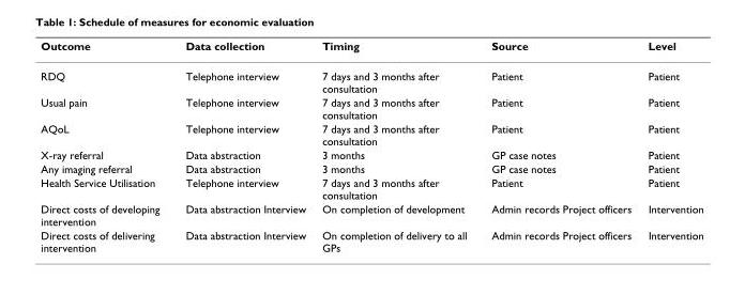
<table><thead><tr><td>Outcome</td><td>Data collection</td><td>Timing</td><td>Source</td><td>Level</td></tr></thead><tbody><tr><td>RDQ</td><td>Telephone interview</td><td>7 days and 3 months after consultation</td><td>Patient</td><td>Patient</td></tr><tr><td>Usual pain</td><td>Telephone interview</td><td>7 days and 3 months after consultation</td><td>Patient</td><td>Patient</td></tr><tr><td>AQoL</td><td>Telephone interview</td><td>7 days and 3 months after consultation</td><td>Patient</td><td>Patient</td></tr><tr><td>X-ray referral</td><td>Data abstraction</td><td>3 months</td><td>GP case notes</td><td>Patient</td></tr><tr><td>Any imaging referral</td><td>Data abstraction</td><td>3 months</td><td>GP case notes</td><td>Patient</td></tr><tr><td>Health Service Utilisation</td><td>Telephone interview</td><td>7 days and 3 months after consultation</td><td>Patient</td><td>Patient</td></tr><tr><td>Direct costs of developing intervention</td><td>Data abstraction Interview</td><td>On completion of development</td><td>Admin records Project officers</td><td>Intervention</td></tr><tr><td>Direct costs of delivering intervention</td><td>Data abstraction Interview</td><td>On completion of delivery to all GPs</td><td>Admin records Project officers</td><td>Intervention</td></tr></tbody></table>